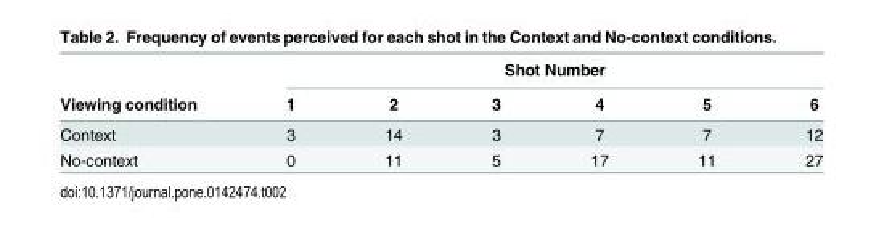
<table><thead><tr><td rowspan="2">Viewing condition</td><td colspan="6">Shot Number</td></tr><tr><td>1</td><td>2</td><td>3</td><td>4</td><td>5</td><td>6</td></tr></thead><tbody><tr><td>Context</td><td>3</td><td>14</td><td>3</td><td>7</td><td>7</td><td>12</td></tr><tr><td>No-context</td><td>0</td><td>11</td><td>5</td><td>17</td><td>11</td><td>27</td></tr></tbody></table>